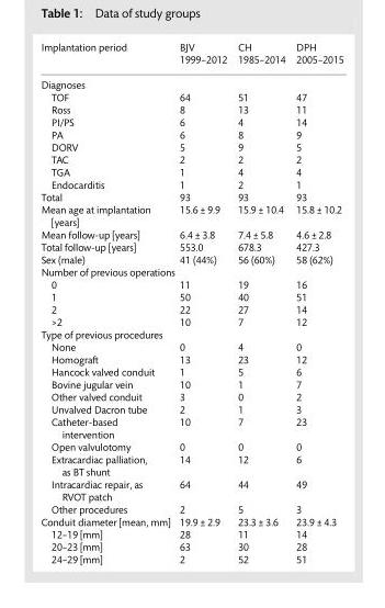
<table><thead><tr><td rowspan="2">Implantation period</td><td rowspan="2">BJV 1999–2012</td><td rowspan="2">CH 1985–2014</td><td rowspan="2">DPH 2005–2015</td></tr><tr></tr></thead><tbody><tr><td colspan="4">Diagnoses</td></tr><tr><td>TOF</td><td>64</td><td>51</td><td>47</td></tr><tr><td>Ross</td><td>8</td><td>13</td><td>11</td></tr><tr><td>PI/PS</td><td>6</td><td>4</td><td>14</td></tr><tr><td>PA</td><td>6</td><td>8</td><td>9</td></tr><tr><td>DORV</td><td>5</td><td>9</td><td>5</td></tr><tr><td>TAC</td><td>2</td><td>2</td><td>2</td></tr><tr><td>TGA</td><td>1</td><td>4</td><td>4</td></tr><tr><td>Endocarditis</td><td>1</td><td>2</td><td>1</td></tr><tr><td>Total</td><td>93</td><td>93</td><td>93</td></tr><tr><td>Mean age at implantation [years]</td><td>15.6 ± 9.9</td><td>15.9 ± 10.4</td><td>15.8 ± 10.2</td></tr><tr><td>Mean follow-up [years]</td><td>6.4 ± 3.8</td><td>7.4 ± 5.8</td><td>4.6 ± 2.8</td></tr><tr><td>Total follow-up [years]</td><td>553.0</td><td>678.3</td><td>427.3</td></tr><tr><td>Sex (male)</td><td>41 (44%)</td><td>56 (60%)</td><td>58 (62%)</td></tr><tr><td colspan="4">Number of previous operations</td></tr><tr><td>0</td><td>11</td><td>19</td><td>16</td></tr><tr><td>1</td><td>50</td><td>40</td><td>51</td></tr><tr><td>2</td><td>22</td><td>27</td><td>14</td></tr><tr><td>&gt;2</td><td>10</td><td>7</td><td>12</td></tr><tr><td colspan="4">Type of previous procedures</td></tr><tr><td>None</td><td>0</td><td>4</td><td>0</td></tr><tr><td>Homograft</td><td>13</td><td>23</td><td>12</td></tr><tr><td>Hancock valved conduit</td><td>1</td><td>5</td><td>6</td></tr><tr><td>Bovine jugular vein</td><td>10</td><td>1</td><td>7</td></tr><tr><td>Other valved conduit</td><td>3</td><td>0</td><td>2</td></tr><tr><td>Unvalved Dacron tube</td><td>2</td><td>1</td><td>3</td></tr><tr><td>Catheter-based intervention</td><td>10</td><td>7</td><td>23</td></tr><tr><td>Open valvulotomy</td><td>0</td><td>0</td><td>0</td></tr><tr><td>Extracardiac palliation, as BT shunt</td><td>14</td><td>12</td><td>6</td></tr><tr><td>Intracardiac repair, as RVOT patch</td><td>64</td><td>44</td><td>49</td></tr><tr><td>Other procedures</td><td>2</td><td>5</td><td>3</td></tr><tr><td>Conduit diameter [mean, mm]</td><td>19.9 ± 2.9</td><td>23.3 ± 3.6</td><td>23.9 ± 4.3</td></tr><tr><td>12–19 [mm]</td><td>28</td><td>11</td><td>14</td></tr><tr><td>20–23 [mm]</td><td>63</td><td>30</td><td>28</td></tr><tr><td>24–29 [mm]</td><td>2</td><td>52</td><td>51</td></tr></tbody></table>